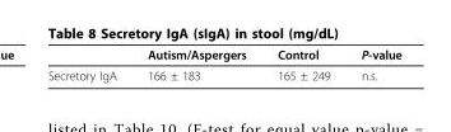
<table><thead><tr><td></td><td>Autism/Aspergers</td><td>Control</td><td>P-value</td></tr></thead><tbody><tr><td>Secretory IgA</td><td>166 ± 183</td><td>165 ± 249</td><td>n.s.</td></tr></tbody></table>